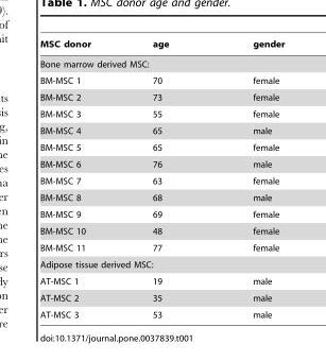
<table><thead><tr><td>MSC donor</td><td>age</td><td>gender</td></tr></thead><tbody><tr><td colspan="3">Bone marrow derived MSC:</td></tr><tr><td>BM-MSC 1</td><td>70</td><td>female</td></tr><tr><td>BM-MSC 2</td><td>73</td><td>female</td></tr><tr><td>BM-MSC 3</td><td>55</td><td>female</td></tr><tr><td>BM-MSC 4</td><td>65</td><td>male</td></tr><tr><td>BM-MSC 5</td><td>65</td><td>female</td></tr><tr><td>BM-MSC 6</td><td>76</td><td>male</td></tr><tr><td>BM-MSC 7</td><td>63</td><td>female</td></tr><tr><td>BM-MSC 8</td><td>68</td><td>male</td></tr><tr><td>BM-MSC 9</td><td>69</td><td>female</td></tr><tr><td>BM-MSC 10</td><td>48</td><td>female</td></tr><tr><td>BM-MSC 11</td><td>77</td><td>female</td></tr><tr><td colspan="3">Adipose tissue derived MSC:</td></tr><tr><td>AT-MSC 1</td><td>19</td><td>male</td></tr><tr><td>AT-MSC 2</td><td>35</td><td>male</td></tr><tr><td>AT-MSC 3</td><td>53</td><td>male</td></tr></tbody></table>